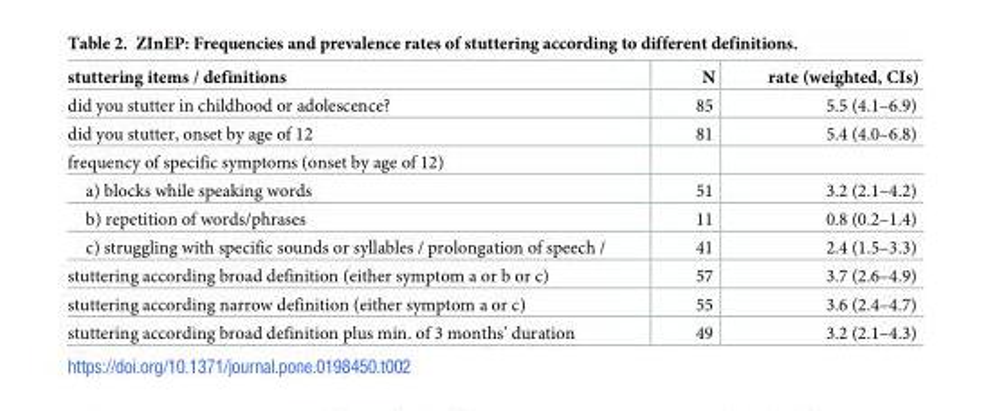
<table><thead><tr><td>stuttering items / definitions</td><td>N</td><td>rate (weighted, CIs)</td></tr></thead><tbody><tr><td>did you stutter in childhood or adolescence?</td><td>85</td><td>5.5 (4.1–6.9)</td></tr><tr><td>did you stutter, onset by age of 12</td><td>81</td><td>5.4 (4.0–6.8)</td></tr><tr><td colspan="3">frequency of specific symptoms (onset by age of 12)</td></tr><tr><td>a) blocks while speaking words</td><td>51</td><td>3.2 (2.1–4.2)</td></tr><tr><td>b) repetition of words/phrases</td><td>11</td><td>0.8 (0.2–1.4)</td></tr><tr><td>c) struggling with specific sounds or syllables / prolongation of speech /</td><td>41</td><td>2.4 (1.5–3.3)</td></tr><tr><td>stuttering according broad definition (either symptom a or b or c)</td><td>57</td><td>3.7 (2.6–4.9)</td></tr><tr><td>stuttering according narrow definition (either symptom a or c)</td><td>55</td><td>3.6 (2.4–4.7)</td></tr><tr><td>stuttering according broad definition plus min. of 3 months’ duration</td><td>49</td><td>3.2 (2.1–4.3)</td></tr></tbody></table>